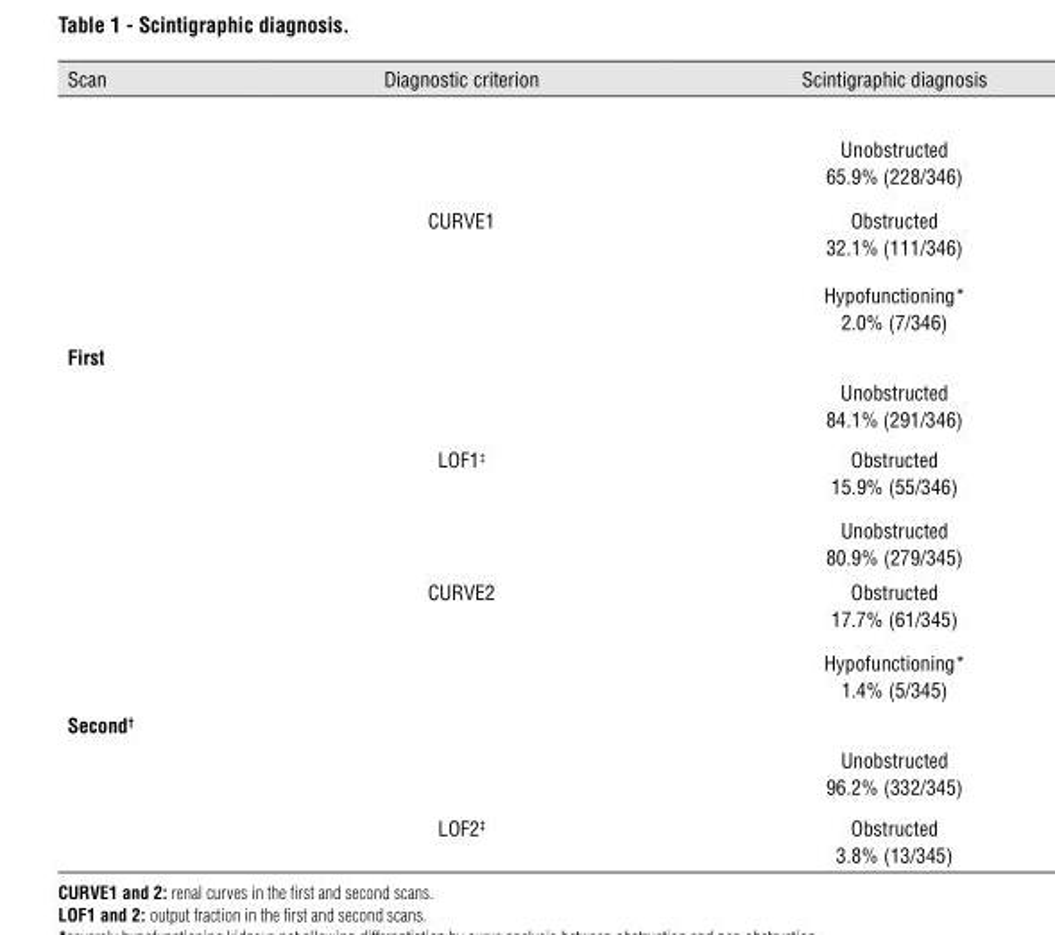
<table><thead><tr><td>Scan</td><td>Diagnostic criterion</td><td>Scintigraphic diagnosis</td></tr></thead><tbody><tr><td></td><td></td><td>Unobstructed 65.9% (228/346)</td></tr><tr><td></td><td>CURVE1</td><td>Obstructed 32.1% (111/346)</td></tr><tr><td></td><td></td><td>Hypofunctioning* 2.0% (7/346)</td></tr><tr><td rowspan="5">first</td><td></td><td>Unobstructed 84.1% (291/346)</td></tr><tr><td>LOF1‡</td><td>Obstructed 15.9% (55/346)</td></tr><tr><td></td><td>Unobstructed 80.9% (279/345)</td></tr><tr><td>CURVE2</td><td>Obstructed 17.7% (61/345)</td></tr><tr><td></td><td>Hypofunctioning* 1.4% (5/345)</td></tr><tr><td rowspan="2">Second†</td><td></td><td>Unobstructed 96.2% (332/345)</td></tr><tr><td>LOF2‡</td><td>Obstructed 3.8% (13/345)</td></tr></tbody></table>